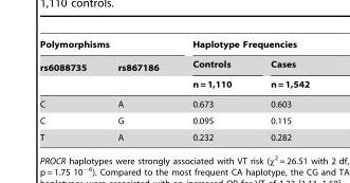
<table><thead><tr><td colspan="2">Polymorphisms</td><td colspan="2">Haplotype Frequencies</td></tr><tr><td rowspan="2">rs6088735</td><td rowspan="2">rs867186</td><td rowspan="2">Controls n = 1,110</td><td rowspan="2">Cases n = 1,542</td></tr><tr></tr></thead><tbody><tr><td>C</td><td>A</td><td>0.673</td><td>0.603</td></tr><tr><td>C</td><td>G</td><td>0.095</td><td>0.115</td></tr><tr><td>T</td><td>A</td><td>0.232</td><td>0.282</td></tr></tbody></table>